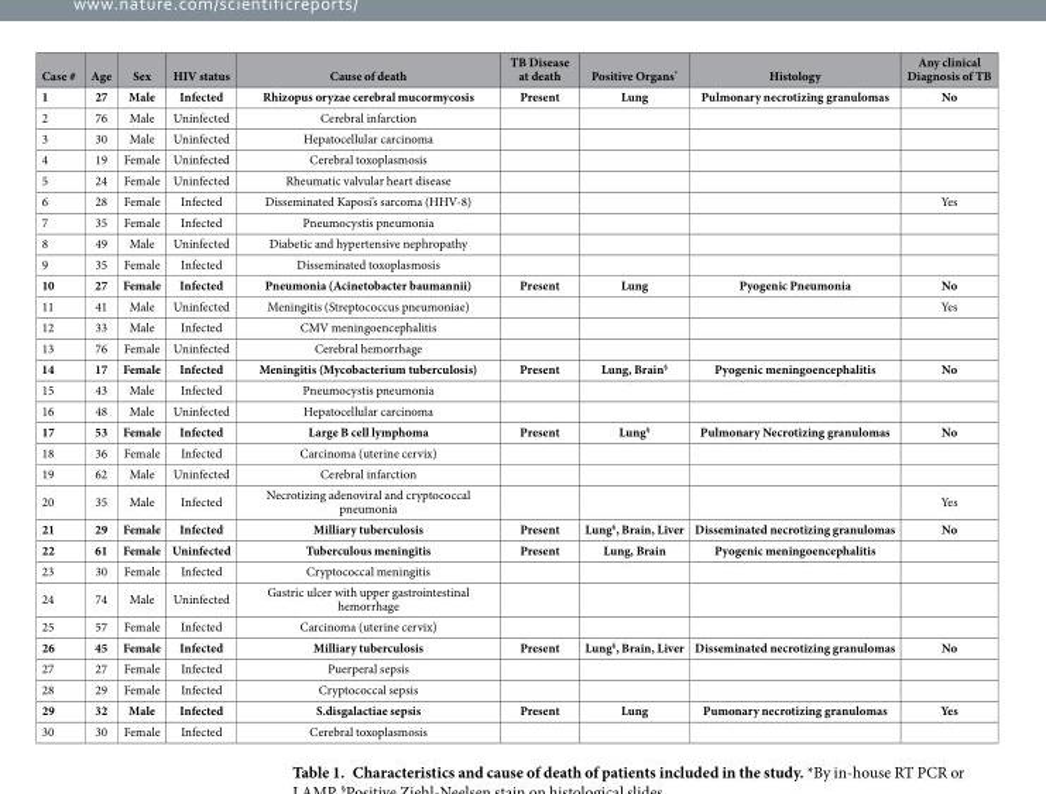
<table><thead><tr><td>Case #</td><td>Age</td><td>Sex</td><td>HIV status</td><td>Cause of death</td><td>TB Disease at death</td><td>Positive Organs*</td><td>Histology</td><td>Any clinical Diagnosis of TB</td></tr></thead><tbody><tr><td>1</td><td>27</td><td>Male</td><td>Infected</td><td>Rhizopus oryzae cerebral mucormycosis</td><td>Present</td><td>Lung</td><td>Pulmonary necrotizing granulomas</td><td>No</td></tr><tr><td>2</td><td>76</td><td>Male</td><td>Uninfected</td><td>Cerebral infarction</td><td></td><td></td><td></td><td></td></tr><tr><td>3</td><td>30</td><td>Male</td><td>Uninfected</td><td>Hepatocellular carcinoma</td><td></td><td></td><td></td><td></td></tr><tr><td>4</td><td>19</td><td>Female</td><td>Uninfected</td><td>Cerebral toxoplasmosis</td><td></td><td></td><td></td><td></td></tr><tr><td>5</td><td>24</td><td>Female</td><td>Uninfected</td><td>Rheumatic valvular heart disease</td><td></td><td></td><td></td><td></td></tr><tr><td>6</td><td>28</td><td>Female</td><td>Infected</td><td>Disseminated Kaposi’s sarcoma (HHV-8)</td><td></td><td></td><td></td><td>Yes</td></tr><tr><td>7</td><td>35</td><td>Female</td><td>Infected</td><td>Pneumocystis pneumonia</td><td></td><td></td><td></td><td></td></tr><tr><td>8</td><td>49</td><td>Male</td><td>Uninfected</td><td>Diabetic and hypertensive nephropathy</td><td></td><td></td><td></td><td></td></tr><tr><td>9</td><td>35</td><td>Female</td><td>Infected</td><td>Disseminated toxoplasmosis</td><td></td><td></td><td></td><td></td></tr><tr><td>10</td><td>27</td><td>Female</td><td>Infected</td><td>Pneumonia (Acinetobacter baumannii)</td><td>Present</td><td>Lung</td><td>Pyogenic Pneumonia</td><td>No</td></tr><tr><td>11</td><td>41</td><td>Male</td><td>Uninfected</td><td>Meningitis (Streptococcus pneumoniae)</td><td></td><td></td><td></td><td>Yes</td></tr><tr><td>12</td><td>33</td><td>Male</td><td>Infected</td><td>CMV meningoencephalitis</td><td></td><td></td><td></td><td></td></tr><tr><td>13</td><td>76</td><td>Female</td><td>Uninfected</td><td>Cerebral hemorrhage</td><td></td><td></td><td></td><td></td></tr><tr><td>14</td><td>17</td><td>Female</td><td>Infected</td><td>Meningitis (Mycobacterium tuberculosis)</td><td>Present</td><td>Lung, Brain§</td><td>Pyogenic meningoencephalitis</td><td>No</td></tr><tr><td>15</td><td>43</td><td>Male</td><td>Infected</td><td>Pneumocystis pneumonia</td><td></td><td></td><td></td><td></td></tr><tr><td>16</td><td>48</td><td>Male</td><td>Uninfected</td><td>Hepatocellular carcinoma</td><td></td><td></td><td></td><td></td></tr><tr><td>17</td><td>53</td><td>Female</td><td>Infected</td><td>Large B cell lymphoma</td><td>Present</td><td>Lung§</td><td>Pulmonary Necrotizing granulomas</td><td>No</td></tr><tr><td>18</td><td>36</td><td>Female</td><td>Infected</td><td>Carcinoma (uterine cervix)</td><td></td><td></td><td></td><td></td></tr><tr><td>19</td><td>62</td><td>Male</td><td>Uninfected</td><td>Cerebral infarction</td><td></td><td></td><td></td><td></td></tr><tr><td>20</td><td>35</td><td>Male</td><td>Infected</td><td>Necrotizing adenoviral and cryptococcal pneumonia</td><td></td><td></td><td></td><td>Yes</td></tr><tr><td>21</td><td>29</td><td>Female</td><td>Infected</td><td>Milliary tuberculosis</td><td>Present</td><td>Lung§, Brain, Liver</td><td>Disseminated necrotizing granulomas</td><td>No</td></tr><tr><td>22</td><td>61</td><td>Female</td><td>Uninfected</td><td>Tuberculous meningitis</td><td>Present</td><td>Lung, Brain</td><td>Pyogenic meningoencephalitis</td><td></td></tr><tr><td>23</td><td>30</td><td>Female</td><td>Infected</td><td>Cryptococcal meningitis</td><td></td><td></td><td></td><td></td></tr><tr><td>24</td><td>74</td><td>Male</td><td>Uninfected</td><td>Gastric ulcer with upper gastrointestinal hemorrhage</td><td></td><td></td><td></td><td></td></tr><tr><td>25</td><td>57</td><td>Female</td><td>Infected</td><td>Carcinoma (uterine cervix)</td><td></td><td></td><td></td><td></td></tr><tr><td>26</td><td>45</td><td>Female</td><td>Infected</td><td>Milliary tuberculosis</td><td>Present</td><td>Lung§, Brain, Liver</td><td>Disseminated necrotizing granulomas</td><td>No</td></tr><tr><td>27</td><td>27</td><td>Female</td><td>Infected</td><td>Puerperal sepsis</td><td></td><td></td><td></td><td></td></tr><tr><td>28</td><td>29</td><td>Female</td><td>Infected</td><td>Cryptococcal sepsis</td><td></td><td></td><td></td><td></td></tr><tr><td>29</td><td>32</td><td>Male</td><td>Infected</td><td>S.disgalactiae sepsis</td><td>Present</td><td>Lung</td><td>Pumonary necrotizing granulomas</td><td>Yes</td></tr><tr><td>30</td><td>30</td><td>Female</td><td>Infected</td><td>Cerebral toxoplasmosis</td><td></td><td></td><td></td><td></td></tr></tbody></table>